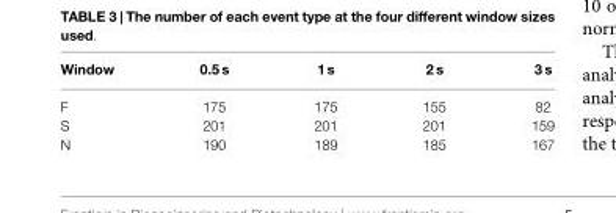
<table><thead><tr><td>Window</td><td>0.5 s</td><td>1 s</td><td>2 s</td><td>3 s</td></tr></thead><tbody><tr><td>F</td><td>175</td><td>175</td><td>155</td><td>82</td></tr><tr><td>S</td><td>201</td><td>201</td><td>201</td><td>159</td></tr><tr><td>N</td><td>190</td><td>189</td><td>185</td><td>167</td></tr></tbody></table>